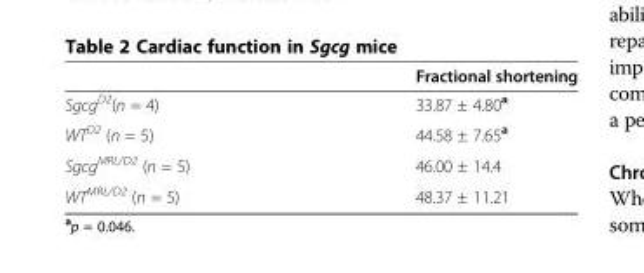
<table><thead><tr><td></td><td>Fractional shortening</td></tr></thead><tbody><tr><td>Sgcg<sup>D2</sup>(n = 4)</td><td>33.87 ± 4.80<sup>a</sup></td></tr><tr><td>WT<sup>D2</sup> (n = 5)</td><td>44.58 ± 7.65<sup>a</sup></td></tr><tr><td>Sgcg<sup>MRL/D2</sup> (n = 5)</td><td>46.00 ± 14.4</td></tr><tr><td>WT<sup>MRL/D2</sup> (n = 5)</td><td>48.37 ± 11.21</td></tr></tbody></table>